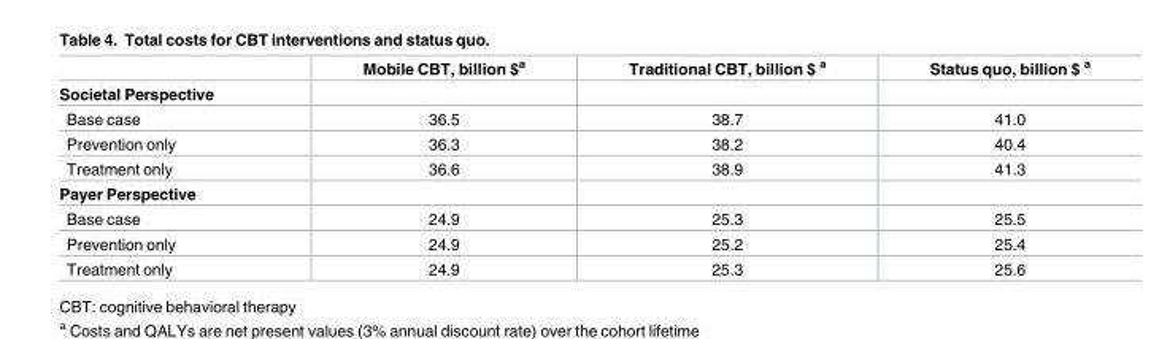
<table><thead><tr><td></td><td>Mobile CBT, billion $<sup>a</sup></td><td>Traditional CBT, billion $ <sup>a</sup></td><td>Status quo, billion $ <sup>a</sup></td></tr></thead><tbody><tr><td colspan="4">Societal Perspective</td></tr><tr><td>Base case</td><td>36.5</td><td>38.7</td><td>41.0</td></tr><tr><td>Prevention only</td><td>36.3</td><td>38.2</td><td>40.4</td></tr><tr><td>Treatment only</td><td>36.6</td><td>38.9</td><td>41.3</td></tr><tr><td colspan="4">Payer Perspective</td></tr><tr><td>Base case</td><td>24.9</td><td>25.3</td><td>25.5</td></tr><tr><td>Prevention only</td><td>24.9</td><td>25.2</td><td>25.4</td></tr><tr><td>Treatment only</td><td>24.9</td><td>25.3</td><td>25.6</td></tr></tbody></table>